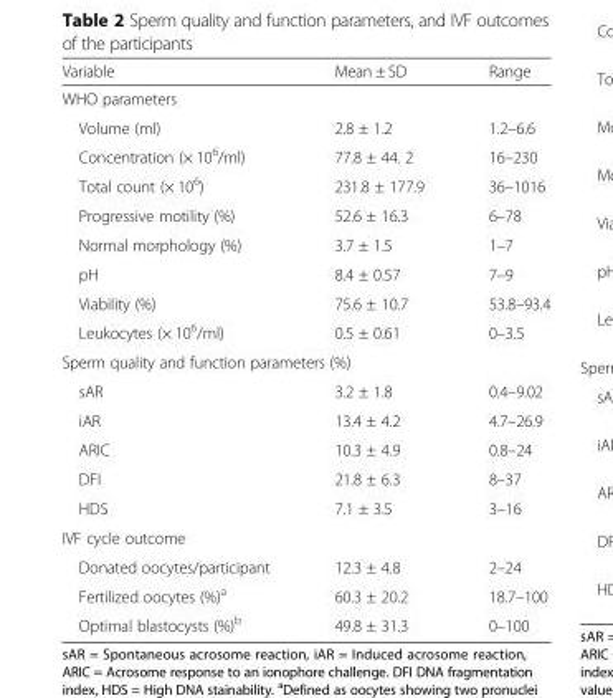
<table><thead><tr><td>Variable</td><td>Mean ± SD</td><td>Range</td></tr></thead><tbody><tr><td colspan="3">WHO parameters</td></tr><tr><td>Volume (ml)</td><td>2.8 ± 1.2</td><td>1.2–6.6</td></tr><tr><td>Concentration (× 10<sup>6</sup>/ml)</td><td>77.8 ± 44. 2</td><td>16–230</td></tr><tr><td>Total count (× 10<sup>6</sup>)</td><td>231.8 ± 177.9</td><td>36–1016</td></tr><tr><td>Progressive motility (%)</td><td>52.6 ± 16.3</td><td>6–78</td></tr><tr><td>Normal morphology (%)</td><td>3.7 ± 1.5</td><td>1–7</td></tr><tr><td>pH</td><td>8.4 ± 0.57</td><td>7–9</td></tr><tr><td>Viability (%)</td><td>75.6 ± 10.7</td><td>53.8–93.4</td></tr><tr><td>Leukocytes (× 10<sup>6</sup>/ml)</td><td>0.5 ± 0.61</td><td>0–3.5</td></tr><tr><td colspan="3">Sperm quality and function parameters (%)</td></tr><tr><td>sAR</td><td>3.2 ± 1.8</td><td>0.4–9.02</td></tr><tr><td>iAR</td><td>13.4 ± 4.2</td><td>4.7–26.9</td></tr><tr><td>ARIC</td><td>10.3 ± 4.9</td><td>0.8–24</td></tr><tr><td>DFI</td><td>21.8 ± 6.3</td><td>8–37</td></tr><tr><td>HDS</td><td>7.1 ± 3.5</td><td>3–16</td></tr><tr><td colspan="3">IVF cycle outcome</td></tr><tr><td>Donated oocytes/participant</td><td>12.3 ± 4.8</td><td>2–24</td></tr><tr><td>Fertilized oocytes (%)<sup>a</sup></td><td>60.3 ± 20.2</td><td>18.7–100</td></tr><tr><td>Optimal blastocysts (%)<sup>b</sup></td><td>49.8 ± 31.3</td><td>0–100</td></tr></tbody></table>